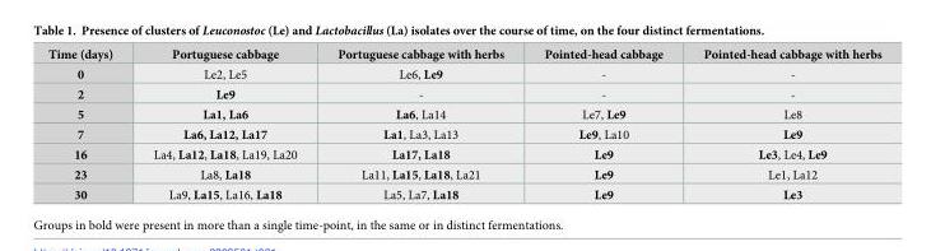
<table><thead><tr><td>Time (days)</td><td>Portuguese cabbage</td><td>Portuguese cabbage with herbs</td><td>Pointed-head cabbage</td><td>Pointed-head cabbage with herbs</td></tr></thead><tbody><tr><td>0</td><td>Le2, Le5</td><td>Le6, Le9</td><td>-</td><td>-</td></tr><tr><td>2</td><td>Le9</td><td>-</td><td>-</td><td>-</td></tr><tr><td>5</td><td>La1, La6</td><td>La6, La14</td><td>Le7, Le9</td><td>Le8</td></tr><tr><td>7</td><td>La6, La12, La17</td><td>La1, La3, La13</td><td>Le9, La10</td><td>Le9</td></tr><tr><td>16</td><td>La4, La12, La18, La19, La20</td><td>La17, La18</td><td>Le9</td><td>Le3, Le4, Le9</td></tr><tr><td>23</td><td>La8, La18</td><td>La11, La15, La18, La21</td><td>Le9</td><td>Le1, La12</td></tr><tr><td>30</td><td>La9, La15, La16, La18</td><td>La5, La7, La18</td><td>Le9</td><td>Le3</td></tr></tbody></table>